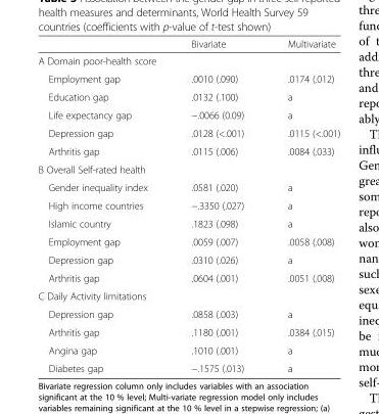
<table><thead><tr><td></td><td>Bivariate</td><td>Multivariate</td></tr></thead><tbody><tr><td colspan="3">A Domain poor-health score</td></tr><tr><td>Employment gap</td><td>.0010 (.090)</td><td>.0174 (.012)</td></tr><tr><td>Education gap</td><td>.0132 (.100)</td><td>a</td></tr><tr><td>Life expectancy gap</td><td>−.0066 (0.09)</td><td>a</td></tr><tr><td>Depression gap</td><td>.0128 (&lt;.001)</td><td>.0115 (&lt;.001)</td></tr><tr><td>Arthritis gap</td><td>.0115 (.006)</td><td>.0084 (.033)</td></tr><tr><td colspan="3">B Overall Self-rated health</td></tr><tr><td>Gender inequality index</td><td>.0581 (.020)</td><td>a</td></tr><tr><td>High income countries</td><td>−.3350 (.027)</td><td>a</td></tr><tr><td>Islamic country</td><td>.1823 (.098)</td><td>a</td></tr><tr><td>Employment gap</td><td>.0059 (.007)</td><td>.0058 (.008)</td></tr><tr><td>Depression gap</td><td>.0310 (.026)</td><td>a</td></tr><tr><td>Arthritis gap</td><td>.0604 (.001)</td><td>.0051 (.008)</td></tr><tr><td colspan="3">C Daily Activity limitations</td></tr><tr><td>Depression gap</td><td>.0858 (.003)</td><td>a</td></tr><tr><td>Arthritis gap</td><td>.1180 (.001)</td><td>.0384 (.015)</td></tr><tr><td>Angina gap</td><td>.1010 (.001)</td><td>a</td></tr><tr><td>Diabetes gap</td><td>−.1575 (.013)</td><td>a</td></tr></tbody></table>